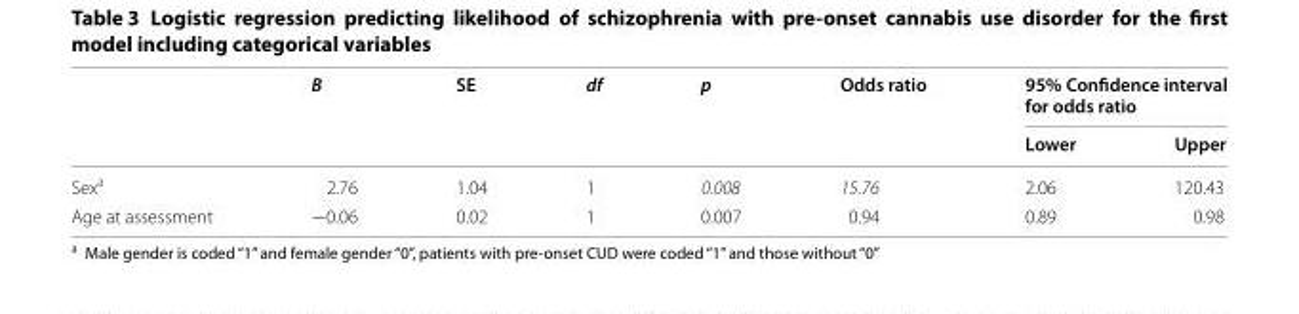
<table><thead><tr><td rowspan="2"></td><td rowspan="2">B</td><td rowspan="2">SE</td><td rowspan="2">df</td><td rowspan="2">p</td><td rowspan="2">Odds ratio</td><td colspan="2">95% Confidence interval for odds ratio</td></tr><tr><td>Lower</td><td>Upper</td></tr></thead><tbody><tr><td>Sex<sup>a</sup></td><td>2.76</td><td>1.04</td><td>1</td><td>0.008</td><td>15.76</td><td>2.06</td><td>120.43</td></tr><tr><td>Age at assessment</td><td>−0.06</td><td>0.02</td><td>1</td><td>0.007</td><td>0.94</td><td>0.89</td><td>0.98</td></tr></tbody></table>